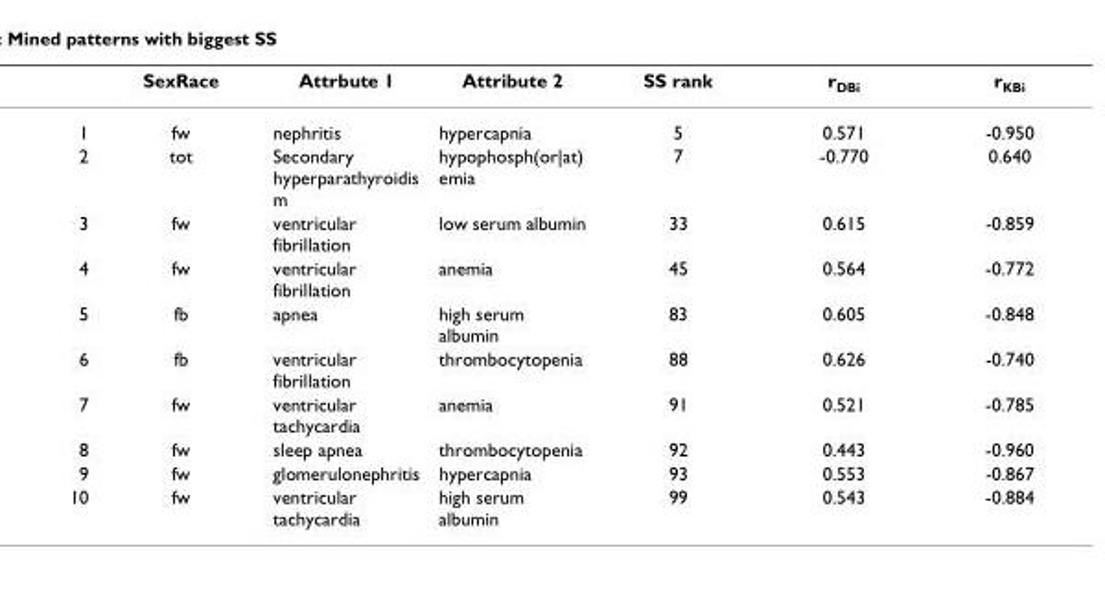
<table><thead><tr><td></td><td>SexRace</td><td>Attrbute 1</td><td>Attribute 2</td><td>SS rank</td><td>r<sub>DBi</sub></td><td>r<sub>KBi</sub></td></tr></thead><tbody><tr><td>1</td><td>fw</td><td>nephritis</td><td>hypercapnia</td><td>5</td><td>0.571</td><td>-0.950</td></tr><tr><td>2</td><td>tot</td><td>Secondary hyperparathyroidis m</td><td>hypophosph(or|at) emia</td><td>7</td><td>-0.770</td><td>0.640</td></tr><tr><td>3</td><td>fw</td><td>ventricular fibrillation</td><td>low serum albumin</td><td>33</td><td>0.615</td><td>-0.859</td></tr><tr><td>4</td><td>fw</td><td>ventricular fibrillation</td><td>anemia</td><td>45</td><td>0.564</td><td>-0.772</td></tr><tr><td>5</td><td>fb</td><td>apnea</td><td>high serum albumin</td><td>83</td><td>0.605</td><td>-0.848</td></tr><tr><td>6</td><td>fb</td><td>ventricular fibrillation</td><td>thrombocytopenia</td><td>88</td><td>0.626</td><td>-0.740</td></tr><tr><td>7</td><td>fw</td><td>ventricular tachycardia</td><td>anemia</td><td>91</td><td>0.521</td><td>-0.785</td></tr><tr><td>8</td><td>fw</td><td>sleep apnea</td><td>thrombocytopenia</td><td>92</td><td>0.443</td><td>-0.960</td></tr><tr><td>9</td><td>fw</td><td>glomerulonephritis</td><td>hypercapnia</td><td>93</td><td>0.553</td><td>-0.867</td></tr><tr><td>10</td><td>fw</td><td>ventricular tachycardia</td><td>high serum albumin</td><td>99</td><td>0.543</td><td>-0.884</td></tr></tbody></table>